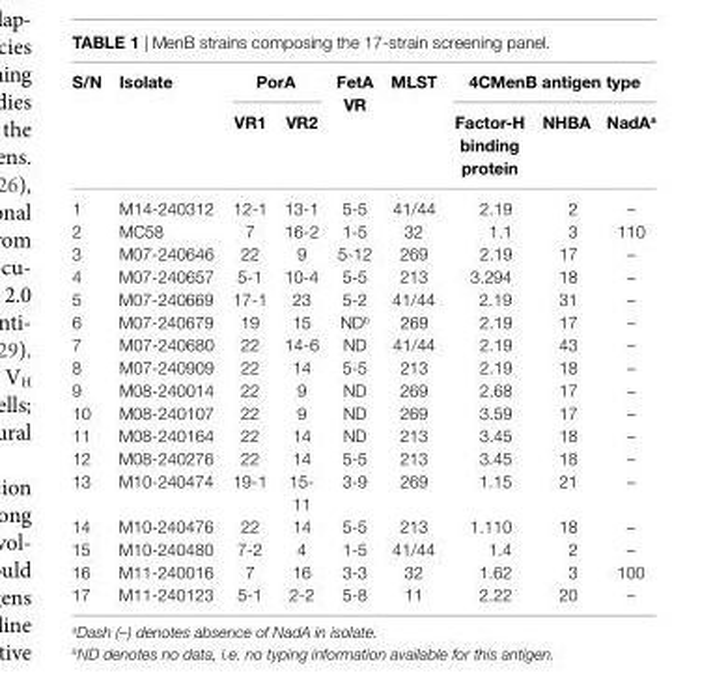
<table><thead><tr><td rowspan="2">s/n</td><td rowspan="2">isolate</td><td colspan="2">Pora</td><td rowspan="2">Feta Vr</td><td rowspan="2">MlsT</td><td colspan="3">4cMenB antigen type</td></tr><tr><td>Vr1</td><td>Vr2</td><td>Factor-h binding protein</td><td>nhBa</td><td>nada<sup>a</sup></td></tr></thead><tbody><tr><td>1</td><td>M14-240312</td><td>12-1</td><td>13-1</td><td>5-5</td><td>41/44</td><td>2.19</td><td>2</td><td>–</td></tr><tr><td>2</td><td>MC58</td><td>7</td><td>16-2</td><td>1-5</td><td>32</td><td>1.1</td><td>3</td><td>110</td></tr><tr><td>3</td><td>M07-240646</td><td>22</td><td>9</td><td>5-12</td><td>269</td><td>2.19</td><td>17</td><td>–</td></tr><tr><td>4</td><td>M07-240657</td><td>5-1</td><td>10-4</td><td>5-5</td><td>213</td><td>3.294</td><td>18</td><td>–</td></tr><tr><td>5</td><td>M07-240669</td><td>17-1</td><td>23</td><td>5-2</td><td>41/44</td><td>2.19</td><td>31</td><td>–</td></tr><tr><td>6</td><td>M07-240679</td><td>19</td><td>15</td><td>ND<sup>b</sup></td><td>269</td><td>2.19</td><td>17</td><td>–</td></tr><tr><td>7</td><td>M07-240680</td><td>22</td><td>14-6</td><td>ND</td><td>41/44</td><td>2.19</td><td>43</td><td>–</td></tr><tr><td>8</td><td>M07-240909</td><td>22</td><td>14</td><td>5-5</td><td>213</td><td>2.19</td><td>18</td><td>–</td></tr><tr><td>9</td><td>M08-240014</td><td>22</td><td>9</td><td>ND</td><td>269</td><td>2.68</td><td>17</td><td>–</td></tr><tr><td>10</td><td>M08-240107</td><td>22</td><td>9</td><td>ND</td><td>269</td><td>3.59</td><td>17</td><td>–</td></tr><tr><td>11</td><td>M08-240164</td><td>22</td><td>14</td><td>ND</td><td>213</td><td>3.45</td><td>18</td><td>–</td></tr><tr><td>12</td><td>M08-240276</td><td>22</td><td>14</td><td>5-5</td><td>213</td><td>3.45</td><td>18</td><td>–</td></tr><tr><td>13</td><td>M10-240474</td><td>19-1</td><td>15- 11</td><td>3-9</td><td>269</td><td>1.15</td><td>21</td><td>–</td></tr><tr><td>14</td><td>M10-240476</td><td>22</td><td>14</td><td>5-5</td><td>213</td><td>1.110</td><td>18</td><td>–</td></tr><tr><td>15</td><td>M10-240480</td><td>7-2</td><td>4</td><td>1-5</td><td>41/44</td><td>1.4</td><td>2</td><td>–</td></tr><tr><td>16</td><td>M11-240016</td><td>7</td><td>16</td><td>3-3</td><td>32</td><td>1.62</td><td>3</td><td>100</td></tr><tr><td>17</td><td>M11-240123</td><td>5-1</td><td>2-2</td><td>5-8</td><td>11</td><td>2.22</td><td>20</td><td>–</td></tr></tbody></table>